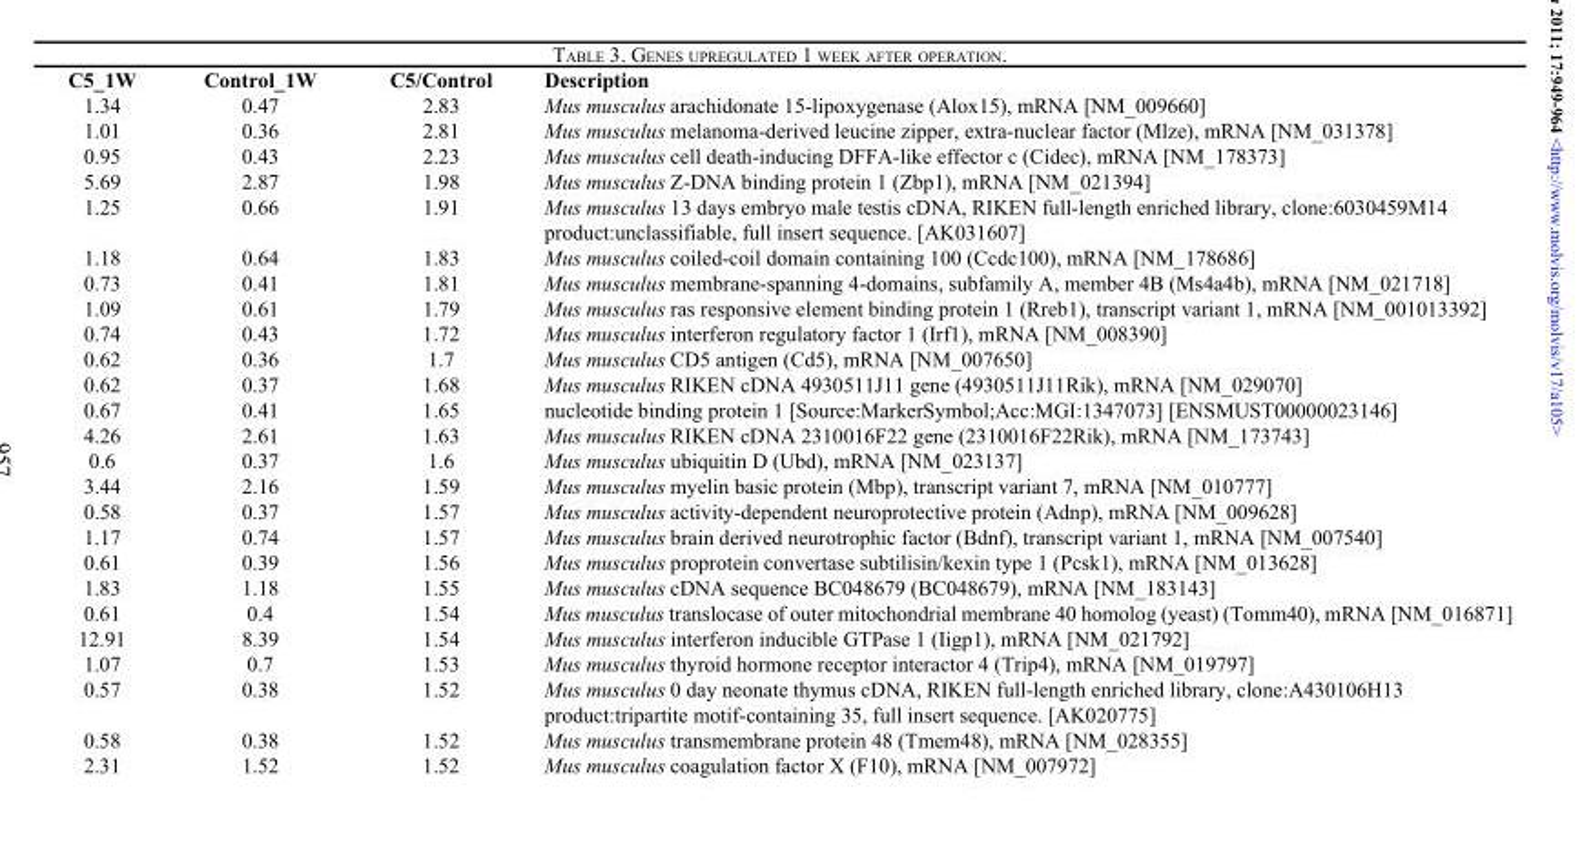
<table><thead><tr><td>C5_1W</td><td>Control_1W</td><td>C5/Control</td><td>Description</td></tr></thead><tbody><tr><td>1.34</td><td>0.47</td><td>2.83</td><td>Mus musculus arachidonate 15-lipoxygenase (Alox15), mRNA [NM_009660]</td></tr><tr><td>1.01</td><td>0.36</td><td>2.81</td><td>Mus musculus melanoma-derived leucine zipper, extra-nuclear factor (Mlze), mRNA [NM_031378]</td></tr><tr><td>0.95</td><td>0.43</td><td>2.23</td><td>Mus musculus cell death-inducing DFFA-like effector c (Cidec), mRNA [NM_178373]</td></tr><tr><td>5.69</td><td>2.87</td><td>1.98</td><td>Mus musculus Z-DNA binding protein 1 (Zbp1), mRNA [NM_021394]</td></tr><tr><td>1.25</td><td>0.66</td><td>1.91</td><td>Mus musculus 13 days embryo male testis cDNA, RIKEN full-length enriched library, clone:6030459M14 product:unclassifiable, full insert sequence. [AK031607]</td></tr><tr><td>1.18</td><td>0.64</td><td>1.83</td><td>Mus musculus coiled-coil domain containing 100 (Ccdc100), mRNA [NM_178686]</td></tr><tr><td>0.73</td><td>0.41</td><td>1.81</td><td>Mus musculus membrane-spanning 4-domains, subfamily A, member 4B (Ms4a4b), mRNA [NM_021718]</td></tr><tr><td>1.09</td><td>0.61</td><td>1.79</td><td>Mus musculus ras responsive element binding protein 1 (Rreb1), transcript variant 1, mRNA [NM_001013392]</td></tr><tr><td>0.74</td><td>0.43</td><td>1.72</td><td>Mus musculus interferon regulatory factor 1 (Irf1), mRNA [NM_008390]</td></tr><tr><td>0.62</td><td>0.36</td><td>1.7</td><td>Mus musculus CD5 antigen (Cd5), mRNA [NM_007650]</td></tr><tr><td>0.62</td><td>0.37</td><td>1.68</td><td>Mus musculus RIKEN cDNA 4930511J11 gene (4930511J11Rik), mRNA [NM_029070]</td></tr><tr><td>0.67</td><td>0.41</td><td>1.65</td><td>nucleotide binding protein 1 [Source:MarkerSymbol;Acc:MGI:1347073] [ENSMUST00000023146]</td></tr><tr><td>4.26</td><td>2.61</td><td>1.63</td><td>Mus musculus RIKEN cDNA 2310016F22 gene (2310016F22Rik), mRNA [NM_173743]</td></tr><tr><td>0.6</td><td>0.37</td><td>1.6</td><td>Mus musculus ubiquitin D (Ubd), mRNA [NM_023137]</td></tr><tr><td>3.44</td><td>2.16</td><td>1.59</td><td>Mus musculus myelin basic protein (Mbp), transcript variant 7, mRNA [NM_010777]</td></tr><tr><td>0.58</td><td>0.37</td><td>1.57</td><td>Mus musculus activity-dependent neuroprotective protein (Adnp), mRNA [NM_009628]</td></tr><tr><td>1.17</td><td>0.74</td><td>1.57</td><td>Mus musculus brain derived neurotrophic factor (Bdnf), transcript variant 1, mRNA [NM_007540]</td></tr><tr><td>0.61</td><td>0.39</td><td>1.56</td><td>Mus musculus proprotein convertase subtilisin/kexin type 1 (Pcsk1), mRNA [NM_013628]</td></tr><tr><td>1.83</td><td>1.18</td><td>1.55</td><td>Mus musculus cDNA sequence BC048679 (BC048679), mRNA [NM_183143]</td></tr><tr><td>0.61</td><td>0.4</td><td>1.54</td><td>Mus musculus translocase of outer mitochondrial membrane 40 homolog (yeast) (Tomm40), mRNA [NM_016871]</td></tr><tr><td>12.91</td><td>8.39</td><td>1.54</td><td>Mus musculus interferon inducible GTPase 1 (Iigp1), mRNA [NM_021792]</td></tr><tr><td>1.07</td><td>0.7</td><td>1.53</td><td>Mus musculus thyroid hormone receptor interactor 4 (Trip4), mRNA [NM_019797]</td></tr><tr><td>0.57</td><td>0.38</td><td>1.52</td><td>Mus musculus 0 day neonate thymus cDNA, RIKEN full-length enriched library, clone:A430106H13 product:tripartite motif-containing 35, full insert sequence. [AK020775]</td></tr><tr><td>0.58</td><td>0.38</td><td>1.52</td><td>Mus musculus transmembrane protein 48 (Tmem48), mRNA [NM_028355]</td></tr><tr><td>2.31</td><td>1.52</td><td>1.52</td><td>Mus musculus coagulation factor X (F10), mRNA [NM_007972]</td></tr></tbody></table>